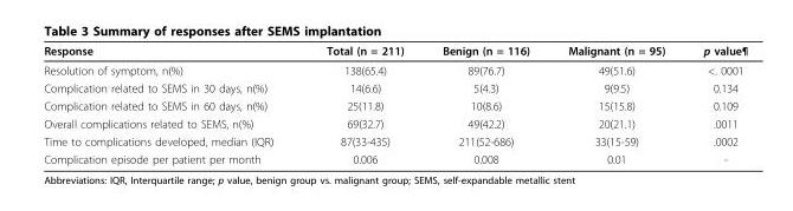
<table><thead><tr><td>Response</td><td>Total (n = 211)</td><td>Benign (n = 116)</td><td>Malignant (n = 95)</td><td>p value¶</td></tr></thead><tbody><tr><td>Resolution of symptom, n(%)</td><td>138(65.4)</td><td>89(76.7)</td><td>49(51.6)</td><td>&lt;. 0001</td></tr><tr><td>Complication related to SEMS in 30 days, n(%)</td><td>14(6.6)</td><td>5(4.3)</td><td>9(9.5)</td><td>0.134</td></tr><tr><td>Complication related to SEMS in 60 days, n(%)</td><td>25(11.8)</td><td>10(8.6)</td><td>15(15.8)</td><td>0.109</td></tr><tr><td>Overall complications related to SEMS, n(%)</td><td>69(32.7)</td><td>49(42.2)</td><td>20(21.1)</td><td>.0011</td></tr><tr><td>Time to complications developed, median (IQR)</td><td>87(33-435)</td><td>211(52-686)</td><td>33(15-59)</td><td>.0002</td></tr><tr><td>Complication episode per patient per month</td><td>0.006</td><td>0.008</td><td>0.01</td><td>-</td></tr></tbody></table>